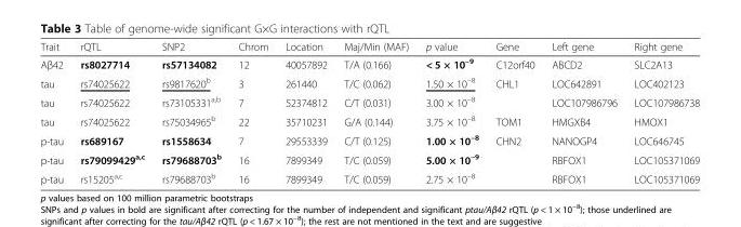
<table><thead><tr><td>Trait</td><td>rQTL</td><td>SNP2</td><td>Chrom</td><td>Location</td><td>Maj/Min (MAF)</td><td>p value</td><td>Gene</td><td>Left gene</td><td>Right gene</td></tr></thead><tbody><tr><td>Aβ42</td><td>rs8027714</td><td>rs57134082</td><td>12</td><td>40057892</td><td>T/A (0.166)</td><td>&lt; 5 × 10<sup>–9</sup></td><td>C12orf40</td><td>ABCD2</td><td>SLC2A13</td></tr><tr><td>tau</td><td>rs74025622</td><td>rs9817620<sup>b</sup></td><td>3</td><td>261440</td><td>T/C (0.062)</td><td>1.50 × 10<sup>–8</sup></td><td>CHL1</td><td>LOC642891</td><td>LOC402123</td></tr><tr><td>tau</td><td>rs74025622</td><td>rs73105331<sup>a,b</sup></td><td>7</td><td>52374812</td><td>C/T (0.031)</td><td>3.00 × 10<sup>–8</sup></td><td></td><td>LOC107986796</td><td>LOC107986738</td></tr><tr><td>tau</td><td>rs74025622</td><td>rs75034965<sup>b</sup></td><td>22</td><td>35710231</td><td>G/A (0.144)</td><td>3.75 × 10<sup>–8</sup></td><td>TOM1</td><td>HMGXB4</td><td>HMOX1</td></tr><tr><td>p-tau</td><td>rs689167</td><td>rs1558634</td><td>7</td><td>29553339</td><td>C/T (0.125)</td><td>1.00 × 10<sup>–8</sup></td><td>CHN2</td><td>NANOGP4</td><td>LOC646745</td></tr><tr><td>p-tau</td><td>rs79099429<sup>a,c</sup></td><td>rs79688703<sup>b</sup></td><td>16</td><td>7899349</td><td>T/C (0.059)</td><td>5.00 × 10<sup>–9</sup></td><td></td><td>RBFOX1</td><td>LOC105371069</td></tr><tr><td>p-tau</td><td>rs15205<sup>a,c</sup></td><td>rs79688703<sup>b</sup></td><td>16</td><td>7899349</td><td>T/C (0.059)</td><td>2.75 × 10<sup>–8</sup></td><td></td><td>RBFOX1</td><td>LOC105371069</td></tr></tbody></table>